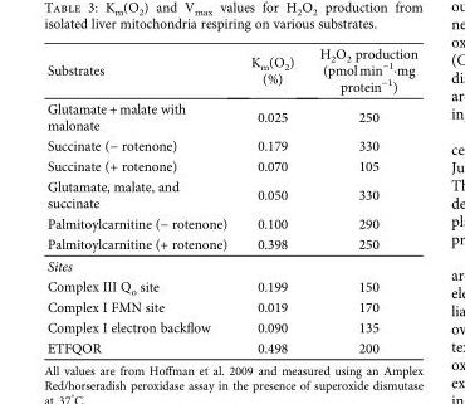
<table><thead><tr><td>Substrates</td><td>K<sub>m</sub>(O<sub>2</sub>) (%)</td><td>H<sub>2</sub>O<sub>2</sub> production (pmol min<sup>−1</sup>·mg protein<sup>−1</sup>)</td></tr></thead><tbody><tr><td>Glutamate + malate with malonate</td><td>0.025</td><td>250</td></tr><tr><td>Succinate (− rotenone)</td><td>0.179</td><td>330</td></tr><tr><td>Succinate (+ rotenone)</td><td>0.070</td><td>105</td></tr><tr><td>Glutamate, malate, and succinate</td><td>0.050</td><td>330</td></tr><tr><td>Palmitoylcarnitine (− rotenone)</td><td>0.100</td><td>290</td></tr><tr><td>Palmitoylcarnitine (+ rotenone)</td><td>0.398</td><td>250</td></tr><tr><td colspan="3">Sites</td></tr><tr><td>Complex III Q<sub>o</sub> site</td><td>0.199</td><td>150</td></tr><tr><td>Complex I FMN site</td><td>0.019</td><td>170</td></tr><tr><td>Complex I electron backflow</td><td>0.090</td><td>135</td></tr><tr><td>ETFQOR</td><td>0.498</td><td>200</td></tr></tbody></table>